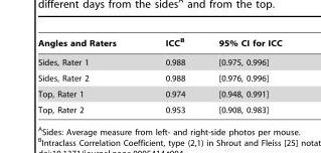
<table><thead><tr><td>Angles and Raters</td><td>ICC<sup>B</sup></td><td>95% CI for ICC</td></tr></thead><tbody><tr><td>Sides, Rater 1</td><td>0.988</td><td>[0.975, 0.996]</td></tr><tr><td>Sides, Rater 2</td><td>0.988</td><td>[0.976, 0.996]</td></tr><tr><td>Top, Rater 1</td><td>0.974</td><td>[0.948, 0.991]</td></tr><tr><td>Top, Rater 2</td><td>0.953</td><td>[0.908, 0.983]</td></tr></tbody></table>